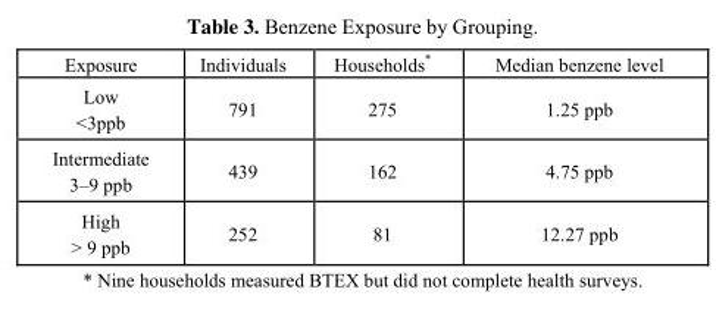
<table><thead><tr><td>Exposure</td><td>Individuals</td><td>Households*</td><td>Median benzene level</td></tr></thead><tbody><tr><td>Low &lt;3ppb</td><td>791</td><td>275</td><td>1.25 ppb</td></tr><tr><td>Intermediate 3–9 ppb</td><td>439</td><td>162</td><td>4.75 ppb</td></tr><tr><td>High &gt; 9 ppb</td><td>252</td><td>81</td><td>12.27 ppb</td></tr></tbody></table>